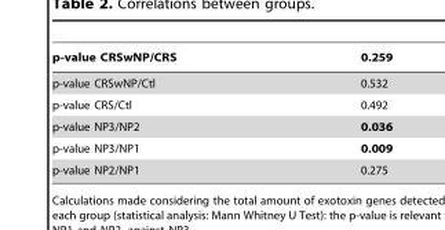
<table><thead><tr><td>p-value CRSwNP/CRS</td><td>0.259</td></tr></thead><tbody><tr><td>p-value CRSwNP/Ctl</td><td>0.532</td></tr><tr><td>p-value CRS/Ctl</td><td>0.492</td></tr><tr><td>p-value NP3/NP2</td><td>0.036</td></tr><tr><td>p-value NP3/NP1</td><td>0.009</td></tr><tr><td>p-value NP2/NP1</td><td>0.275</td></tr></tbody></table>